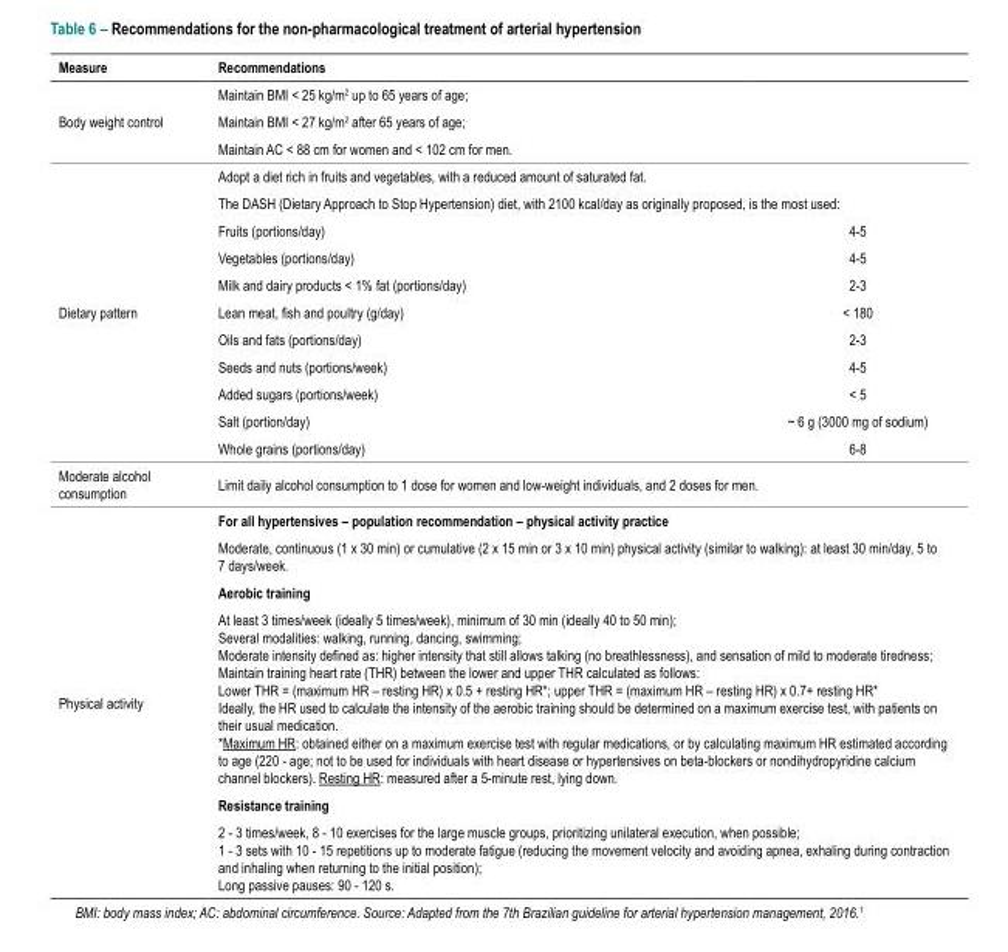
<table><thead><tr><td>Measure</td><td colspan="2">Recommendations</td></tr></thead><tbody><tr><td rowspan="3">Body weight control</td><td colspan="2">Maintain BMI &lt; 25 kg/m<sup>2</sup> up to 65 years of age;</td></tr><tr><td colspan="2">Maintain BMI &lt; 27 kg/m<sup>2</sup> after 65 years of age;</td></tr><tr><td colspan="2">Maintain AC &lt; 88 cm for women and &lt; 102 cm for men.</td></tr><tr><td rowspan="11">Dietary pattern</td><td colspan="2">Adopt a diet rich in fruits and vegetables, with a reduced amount of saturated fat.</td></tr><tr><td colspan="2">The DASH (Dietary Approach to Stop Hypertension) diet, with 2100 kcal/day as originally proposed, is the most used:</td></tr><tr><td>Fruits (portions/day)</td><td>4-5</td></tr><tr><td>Vegetables (portions/day)</td><td>4-5</td></tr><tr><td>Milk and dairy products &lt; 1% fat (portions/day)</td><td>2-3</td></tr><tr><td>Lean meat, fish and poultry (g/day)</td><td>&lt; 180</td></tr><tr><td>Oils and fats (portions/day)</td><td>2-3</td></tr><tr><td>Seeds and nuts (portions/week)</td><td>4-5</td></tr><tr><td>Added sugars (portions/week)</td><td>&lt; 5</td></tr><tr><td>Salt (portion/day)</td><td>~ 6 g (3000 mg of sodium)</td></tr><tr><td>Whole grains (portions/day)</td><td>6-8</td></tr><tr><td>Moderate alcohol consumption</td><td colspan="2">Limit daily alcohol consumption to 1 dose for women and low-weight individuals, and 2 doses for men.</td></tr><tr><td rowspan="6">Physical activity</td><td colspan="2">For all hypertensives – population recommendation – physical activity practice</td></tr><tr><td colspan="2">Moderate, continuous (1 x 30 min) or cumulative (2 x 15 min or 3 x 10 min) physical activity (similar to walking): at least 30 min/day, 5 to 7 days/week.</td></tr><tr><td colspan="2">Aerobic training</td></tr><tr><td colspan="2">At least 3 times/week (ideally 5 times/week), minimum of 30 min (ideally 40 to 50 min); Several modalities: walking, running, dancing, swimming; Moderate intensity defined as: higher intensity that still allows talking (no breathlessness), and sensation of mild to moderate tiredness; Maintain training heart rate (THR) between the lower and upper THR calculated as follows: Lower THR = (maximum HR – resting HR) x 0.5 + resting HR*; upper THR = (maximum HR – resting HR) x 0.7+ resting HR* Ideally, the HR used to calculate the intensity of the aerobic training should be determined on a maximum exercise test, with patients on their usual medication. *Maximum HR: obtained either on a maximum exercise test with regular medications, or by calculating maximum HR estimated according to age (220 - age; not to be used for individuals with heart disease or hypertensives on beta-blockers or nondihydropyridine calcium channel blockers). Resting HR: measured after a 5-minute rest, lying down.</td></tr><tr><td colspan="2">Resistance training</td></tr><tr><td colspan="2">2 - 3 times/week, 8 - 10 exercises for the large muscle groups, prioritizing unilateral execution, when possible; 1 - 3 sets with 10 - 15 repetitions up to moderate fatigue (reducing the movement velocity and avoiding apnea, exhaling during contraction and inhaling when returning to the initial position); Long passive pauses: 90 - 120 s.</td></tr></tbody></table>